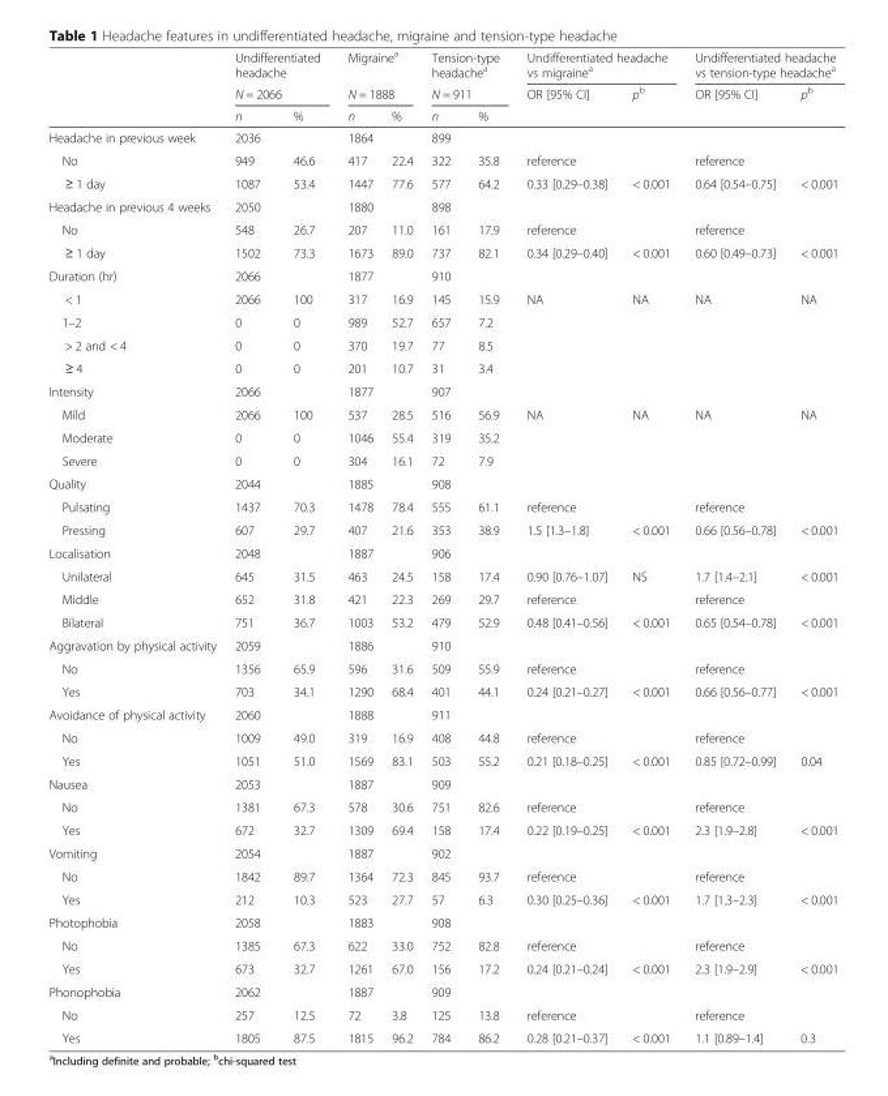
<table><thead><tr><td rowspan="3"></td><td rowspan="2" colspan="2">Undifferentiated headache N = 2066</td><td rowspan="2" colspan="2">Migraine<sup>a</sup> N = 1888</td><td rowspan="2" colspan="2">Tension-type headache<sup>a</sup> N = 911</td><td colspan="2">Undifferentiated headache vs migraine<sup>a</sup></td><td colspan="2">Undifferentiated headache vs tension-type headache<sup>a</sup></td></tr><tr><td rowspan="2">OR [95% CI]</td><td rowspan="2">p<sup>b</sup></td><td rowspan="2">OR [95% CI]</td><td rowspan="2">p<sup>b</sup></td></tr><tr><td>n</td><td>%</td><td>n</td><td>%</td><td>n</td><td>%</td></tr></thead><tbody><tr><td>Headache in previous week</td><td>2036</td><td></td><td>1864</td><td></td><td>899</td><td></td><td colspan="4"></td></tr><tr><td>No</td><td>949</td><td>46.6</td><td>417</td><td>22.4</td><td>322</td><td>35.8</td><td>reference</td><td></td><td>reference</td><td></td></tr><tr><td>≥ 1 day</td><td>1087</td><td>53.4</td><td>1447</td><td>77.6</td><td>577</td><td>64.2</td><td>0.33 [0.29–0.38]</td><td>&lt; 0.001</td><td>0.64 [0.54–0.75]</td><td>&lt; 0.001</td></tr><tr><td>Headache in previous 4 weeks</td><td>2050</td><td></td><td>1880</td><td></td><td>898</td><td></td><td colspan="4"></td></tr><tr><td>No</td><td>548</td><td>26.7</td><td>207</td><td>11.0</td><td>161</td><td>17.9</td><td>reference</td><td></td><td>reference</td><td></td></tr><tr><td>≥ 1 day</td><td>1502</td><td>73.3</td><td>1673</td><td>89.0</td><td>737</td><td>82.1</td><td>0.34 [0.29–0.40]</td><td>&lt; 0.001</td><td>0.60 [0.49–0.73]</td><td>&lt; 0.001</td></tr><tr><td>Duration (hr)</td><td>2066</td><td></td><td>1877</td><td></td><td>910</td><td></td><td colspan="4"></td></tr><tr><td>&lt; 1</td><td>2066</td><td>100</td><td>317</td><td>16.9</td><td>145</td><td>15.9</td><td rowspan="4">NA</td><td rowspan="4">NA</td><td rowspan="4">NA</td><td rowspan="4">NA</td></tr><tr><td>1–2</td><td>0</td><td>0</td><td>989</td><td>52.7</td><td>657</td><td>7.2</td></tr><tr><td>&gt; 2 and &lt; 4</td><td>0</td><td>0</td><td>370</td><td>19.7</td><td>77</td><td>8.5</td></tr><tr><td>≥ 4</td><td>0</td><td>0</td><td>201</td><td>10.7</td><td>31</td><td>3.4</td></tr><tr><td>Intensity</td><td>2066</td><td></td><td>1877</td><td></td><td>907</td><td></td><td colspan="4"></td></tr><tr><td>Mild</td><td>2066</td><td>100</td><td>537</td><td>28.5</td><td>516</td><td>56.9</td><td rowspan="3">NA</td><td rowspan="3">NA</td><td rowspan="3">NA</td><td rowspan="3">NA</td></tr><tr><td>Moderate</td><td>0</td><td>0</td><td>1046</td><td>55.4</td><td>319</td><td>35.2</td></tr><tr><td>Severe</td><td>0</td><td>0</td><td>304</td><td>16.1</td><td>72</td><td>7.9</td></tr><tr><td>Quality</td><td>2044</td><td></td><td>1885</td><td></td><td>908</td><td></td><td colspan="4"></td></tr><tr><td>Pulsating</td><td>1437</td><td>70.3</td><td>1478</td><td>78.4</td><td>555</td><td>61.1</td><td>reference</td><td></td><td>reference</td><td></td></tr><tr><td>Pressing</td><td>607</td><td>29.7</td><td>407</td><td>21.6</td><td>353</td><td>38.9</td><td>1.5 [1.3–1.8]</td><td>&lt; 0.001</td><td>0.66 [0.56–0.78]</td><td>&lt; 0.001</td></tr><tr><td>Localisation</td><td>2048</td><td></td><td>1887</td><td></td><td>906</td><td></td><td colspan="4"></td></tr><tr><td>Unilateral</td><td>645</td><td>31.5</td><td>463</td><td>24.5</td><td>158</td><td>17.4</td><td>0.90 [0.76–1.07]</td><td>NS</td><td>1.7 [1.4–2.1]</td><td>&lt; 0.001</td></tr><tr><td>Middle</td><td>652</td><td>31.8</td><td>421</td><td>22.3</td><td>269</td><td>29.7</td><td>reference</td><td></td><td>reference</td><td></td></tr><tr><td>Bilateral</td><td>751</td><td>36.7</td><td>1003</td><td>53.2</td><td>479</td><td>52.9</td><td>0.48 [0.41–0.56]</td><td>&lt; 0.001</td><td>0.65 [0.54–0.78]</td><td>&lt; 0.001</td></tr><tr><td>Aggravation by physical activity</td><td>2059</td><td></td><td>1886</td><td></td><td>910</td><td></td><td colspan="4"></td></tr><tr><td>No</td><td>1356</td><td>65.9</td><td>596</td><td>31.6</td><td>509</td><td>55.9</td><td>reference</td><td></td><td>reference</td><td></td></tr><tr><td>Yes</td><td>703</td><td>34.1</td><td>1290</td><td>68.4</td><td>401</td><td>44.1</td><td>0.24 [0.21–0.27]</td><td>&lt; 0.001</td><td>0.66 [0.56–0.77]</td><td>&lt; 0.001</td></tr><tr><td>Avoidance of physical activity</td><td>2060</td><td></td><td>1888</td><td></td><td>911</td><td></td><td colspan="4"></td></tr><tr><td>No</td><td>1009</td><td>49.0</td><td>319</td><td>16.9</td><td>408</td><td>44.8</td><td>reference</td><td></td><td>reference</td><td></td></tr><tr><td>Yes</td><td>1051</td><td>51.0</td><td>1569</td><td>83.1</td><td>503</td><td>55.2</td><td>0.21 [0.18–0.25]</td><td>&lt; 0.001</td><td>0.85 [0.72–0.99]</td><td>0.04</td></tr><tr><td>Nausea</td><td>2053</td><td></td><td>1887</td><td></td><td>909</td><td></td><td colspan="4"></td></tr><tr><td>No</td><td>1381</td><td>67.3</td><td>578</td><td>30.6</td><td>751</td><td>82.6</td><td>reference</td><td></td><td>reference</td><td></td></tr><tr><td>Yes</td><td>672</td><td>32.7</td><td>1309</td><td>69.4</td><td>158</td><td>17.4</td><td>0.22 [0.19–0.25]</td><td>&lt; 0.001</td><td>2.3 [1.9–2.8]</td><td>&lt; 0.001</td></tr><tr><td>Vomiting</td><td>2054</td><td></td><td>1887</td><td></td><td>902</td><td></td><td colspan="4"></td></tr><tr><td>No</td><td>1842</td><td>89.7</td><td>1364</td><td>72.3</td><td>845</td><td>93.7</td><td>reference</td><td></td><td>reference</td><td></td></tr><tr><td>Yes</td><td>212</td><td>10.3</td><td>523</td><td>27.7</td><td>57</td><td>6.3</td><td>0.30 [0.25–0.36]</td><td>&lt; 0.001</td><td>1.7 [1.3–2.3]</td><td>&lt; 0.001</td></tr><tr><td>Photophobia</td><td>2058</td><td></td><td>1883</td><td></td><td>908</td><td></td><td colspan="4"></td></tr><tr><td>No</td><td>1385</td><td>67.3</td><td>622</td><td>33.0</td><td>752</td><td>82.8</td><td>reference</td><td></td><td>reference</td><td></td></tr><tr><td>Yes</td><td>673</td><td>32.7</td><td>1261</td><td>67.0</td><td>156</td><td>17.2</td><td>0.24 [0.21–0.24]</td><td>&lt; 0.001</td><td>2.3 [1.9–2.9]</td><td>&lt; 0.001</td></tr><tr><td>Phonophobia</td><td>2062</td><td></td><td>1887</td><td></td><td>909</td><td></td><td colspan="4"></td></tr><tr><td>No</td><td>257</td><td>12.5</td><td>72</td><td>3.8</td><td>125</td><td>13.8</td><td>reference</td><td></td><td>reference</td><td></td></tr><tr><td>Yes</td><td>1805</td><td>87.5</td><td>1815</td><td>96.2</td><td>784</td><td>86.2</td><td>0.28 [0.21–0.37]</td><td>&lt; 0.001</td><td>1.1 [0.89–1.4]</td><td>0.3</td></tr></tbody></table>